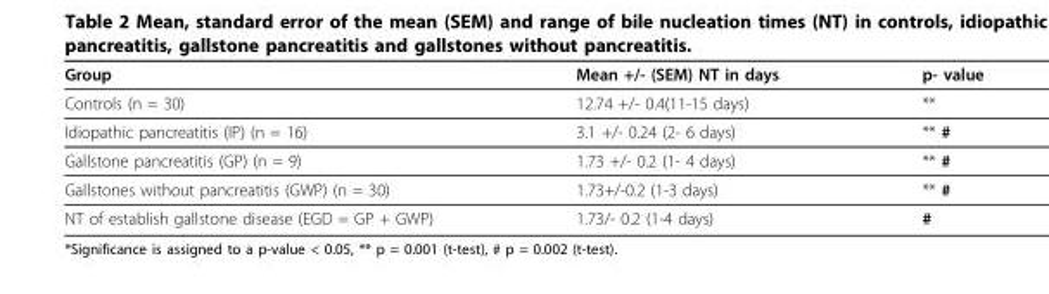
<table><thead><tr><td>Group</td><td>Mean +/- (SEM) NT in days</td><td>p- value</td></tr></thead><tbody><tr><td>Controls (n = 30)</td><td>12.74 +/- 0.4(11-15 days)</td><td>**</td></tr><tr><td>Idiopathic pancreatitis (IP) (n = 16)</td><td>3.1 +/- 0.24 (2- 6 days)</td><td>** #</td></tr><tr><td>Gallstone pancreatitis (GP) (n = 9)</td><td>1.73 +/- 0.2 (1- 4 days)</td><td>** #</td></tr><tr><td>Gallstones without pancreatitis (GWP) (n = 30)</td><td>1.73+/-0.2 (1-3 days)</td><td>** #</td></tr><tr><td>NT of establish gallstone disease (EGD = GP + GWP)</td><td>1.73/- 0.2 (1-4 days)</td><td>#</td></tr></tbody></table>